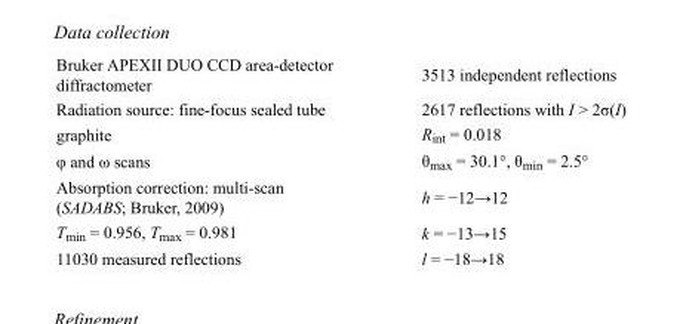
<table><tbody><tr><td>Bruker APEXII DUO CCD area-detector diffractometer</td><td>3513 independent reflections</td></tr><tr><td>Radiation source: fine-focus sealed tube</td><td>2617 reflections with I &gt; 2σ(I)</td></tr><tr><td>graphite</td><td>R<sub>int</sub> = 0.018</td></tr><tr><td>φ and ω scans</td><td>θ<sub>max</sub> = 30.1°, θ<sub>min</sub> = 2.5°</td></tr><tr><td>Absorption correction: multi-scan (SADABS; Bruker, 2009)</td><td>h = −12→12</td></tr><tr><td>T<sub>min</sub> = 0.956, T<sub>max</sub> = 0.981</td><td>k = −13→15</td></tr><tr><td>11030 measured reflections</td><td>l = −18→18</td></tr></tbody></table>